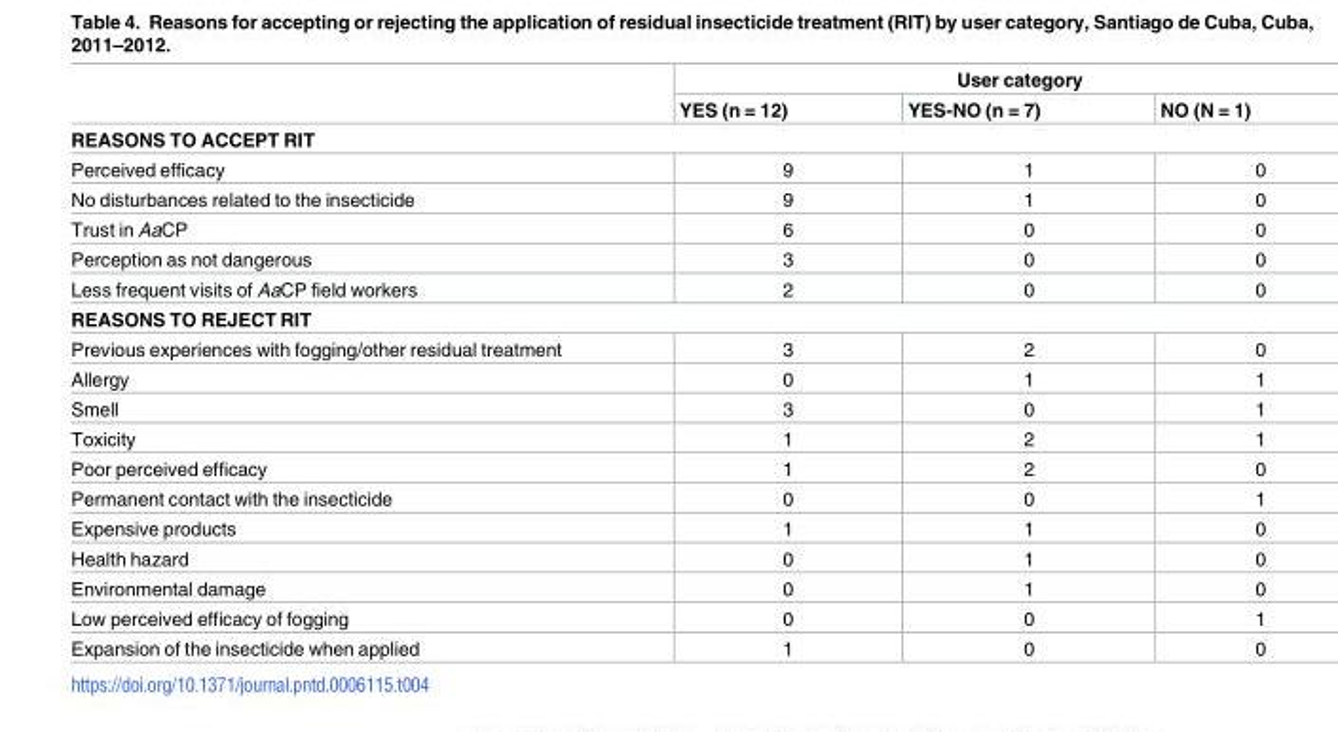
<table><thead><tr><td rowspan="2"></td><td colspan="3">User category</td></tr><tr><td>YES (n = 12)</td><td>YES-NO (n = 7)</td><td>NO (N = 1)</td></tr></thead><tbody><tr><td colspan="4">REASONS TO ACCEPT RIT</td></tr><tr><td>Perceived efficacy</td><td>9</td><td>1</td><td>0</td></tr><tr><td>No disturbances related to the insecticide</td><td>9</td><td>1</td><td>0</td></tr><tr><td>Trust in AaCP</td><td>6</td><td>0</td><td>0</td></tr><tr><td>Perception as not dangerous</td><td>3</td><td>0</td><td>0</td></tr><tr><td>Less frequent visits of AaCP field workers</td><td>2</td><td>0</td><td>0</td></tr><tr><td colspan="4">REASONS TO REJECT RIT</td></tr><tr><td>Previous experiences with fogging/other residual treatment</td><td>3</td><td>2</td><td>0</td></tr><tr><td>Allergy</td><td>0</td><td>1</td><td>1</td></tr><tr><td>Smell</td><td>3</td><td>0</td><td>1</td></tr><tr><td>Toxicity</td><td>1</td><td>2</td><td>1</td></tr><tr><td>Poor perceived efficacy</td><td>1</td><td>2</td><td>0</td></tr><tr><td>Permanent contact with the insecticide</td><td>0</td><td>0</td><td>1</td></tr><tr><td>Expensive products</td><td>1</td><td>1</td><td>0</td></tr><tr><td>Health hazard</td><td>0</td><td>1</td><td>0</td></tr><tr><td>Environmental damage</td><td>0</td><td>1</td><td>0</td></tr><tr><td>Low perceived efficacy of fogging</td><td>0</td><td>0</td><td>1</td></tr><tr><td>Expansion of the insecticide when applied</td><td>1</td><td>0</td><td>0</td></tr></tbody></table>